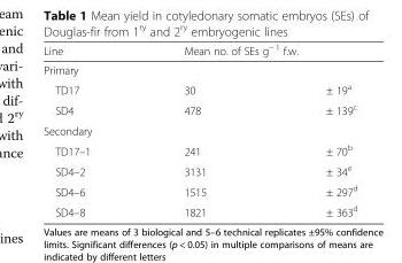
<table><thead><tr><td>Line</td><td colspan="2">Mean no. of SEs g<sup>− 1</sup> f.w.</td></tr><tr><td colspan="3">Primary</td></tr><tr><td>TD17</td><td>30</td><td>± 19<sup>a</sup></td></tr></thead><tbody><tr><td>SD4</td><td>478</td><td>± 139<sup>c</sup></td></tr><tr><td colspan="3">Secondary</td></tr><tr><td>TD17–1</td><td>241</td><td>± 70<sup>b</sup></td></tr><tr><td>SD4–2</td><td>3131</td><td>± 34<sup>e</sup></td></tr><tr><td>SD4–6</td><td>1515</td><td>± 297<sup>d</sup></td></tr><tr><td>SD4–8</td><td>1821</td><td>± 363<sup>d</sup></td></tr></tbody></table>